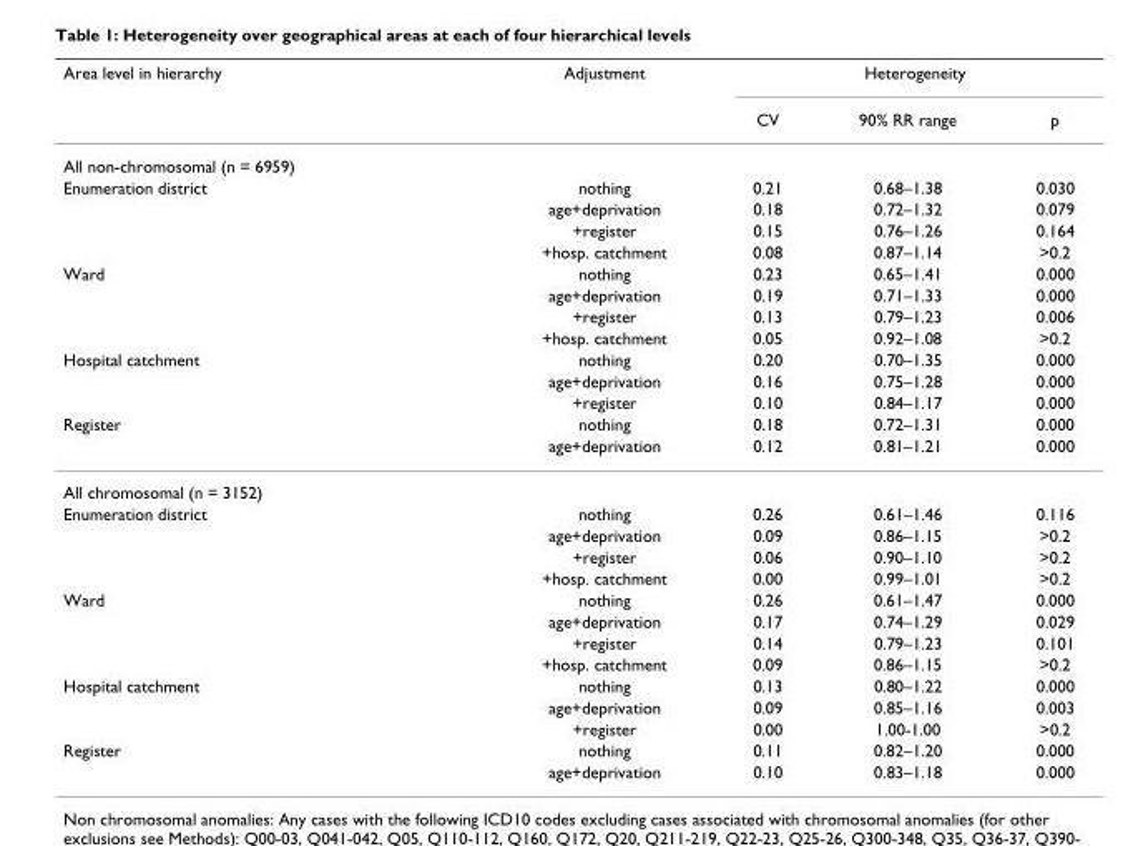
<table><thead><tr><td rowspan="2">Area level in hierarchy</td><td rowspan="2">Adjustment</td><td colspan="3">Heterogeneity</td></tr><tr><td>CV</td><td>90% RR range</td><td>p</td></tr></thead><tbody><tr><td colspan="5">All non-chromosomal (n = 6959)</td></tr><tr><td rowspan="4">Enumeration district</td><td>nothing</td><td>0.21</td><td>0.68–1.38</td><td>0.030</td></tr><tr><td>age+deprivation</td><td>0.18</td><td>0.72–1.32</td><td>0.079</td></tr><tr><td>+register</td><td>0.15</td><td>0.76–1.26</td><td>0.164</td></tr><tr><td>+hosp. catchment</td><td>0.08</td><td>0.87–1.14</td><td>&gt;0.2</td></tr><tr><td rowspan="4">Ward</td><td>nothing</td><td>0.23</td><td>0.65–1.41</td><td>0.000</td></tr><tr><td>age+deprivation</td><td>0.19</td><td>0.71–1.33</td><td>0.000</td></tr><tr><td>+register</td><td>0.13</td><td>0.79–1.23</td><td>0.006</td></tr><tr><td>+hosp. catchment</td><td>0.05</td><td>0.92–1.08</td><td>&gt;0.2</td></tr><tr><td rowspan="3">Hospital catchment</td><td>nothing</td><td>0.20</td><td>0.70–1.35</td><td>0.000</td></tr><tr><td>age+deprivation</td><td>0.16</td><td>0.75–1.28</td><td>0.000</td></tr><tr><td>+register</td><td>0.10</td><td>0.84–1.17</td><td>0.000</td></tr><tr><td rowspan="2">Register</td><td>nothing</td><td>0.18</td><td>0.72–1.31</td><td>0.000</td></tr><tr><td>age+deprivation</td><td>0.12</td><td>0.81–1.21</td><td>0.000</td></tr><tr><td colspan="5">All chromosomal (n = 3152)</td></tr><tr><td rowspan="4">Enumeration district</td><td>nothing</td><td>0.26</td><td>0.61–1.46</td><td>0.116</td></tr><tr><td>age+deprivation</td><td>0.09</td><td>0.86–1.15</td><td>&gt;0.2</td></tr><tr><td>+register</td><td>0.06</td><td>0.90–1.10</td><td>&gt;0.2</td></tr><tr><td>+hosp. catchment</td><td>0.00</td><td>0.99–1.01</td><td>&gt;0.2</td></tr><tr><td rowspan="4">Ward</td><td>nothing</td><td>0.26</td><td>0.61–1.47</td><td>0.000</td></tr><tr><td>age+deprivation</td><td>0.17</td><td>0.74–1.29</td><td>0.029</td></tr><tr><td>+register</td><td>0.14</td><td>0.79–1.23</td><td>0.101</td></tr><tr><td>+hosp. catchment</td><td>0.09</td><td>0.86–1.15</td><td>&gt;0.2</td></tr><tr><td rowspan="3">Hospital catchment</td><td>nothing</td><td>0.13</td><td>0.80–1.22</td><td>0.000</td></tr><tr><td>age+deprivation</td><td>0.09</td><td>0.85–1.16</td><td>0.003</td></tr><tr><td>+register</td><td>0.00</td><td>1.00-1.00</td><td>&gt;0.2</td></tr><tr><td rowspan="2">Register</td><td>nothing</td><td>0.11</td><td>0.82–1.20</td><td>0.000</td></tr><tr><td>age+deprivation</td><td>0.10</td><td>0.83–1.18</td><td>0.000</td></tr></tbody></table>